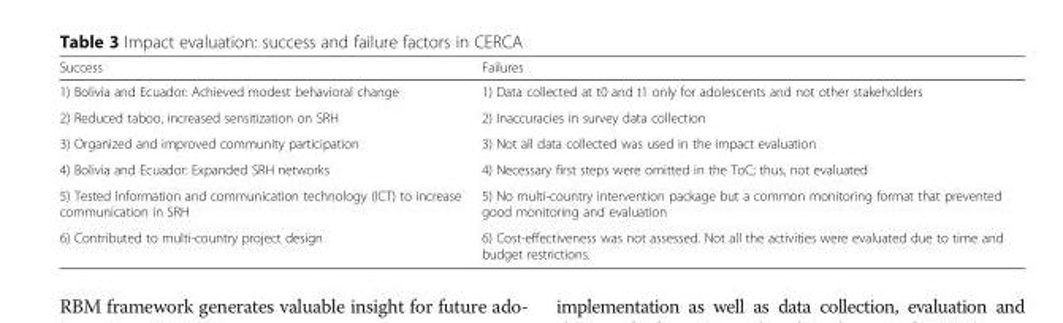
<table><thead><tr><td>Success</td><td>Failures</td></tr></thead><tbody><tr><td>1) Bolivia and Ecuador: Achieved modest behavioral change</td><td>1) Data collected at t0 and t1 only for adolescents and not other stakeholders</td></tr><tr><td>2) Reduced taboo, increased sensitization on SRH</td><td>2) Inaccuracies in survey data collection</td></tr><tr><td>3) Organized and improved community participation</td><td>3) Not all data collected was used in the impact evaluation</td></tr><tr><td>4) Bolivia and Ecuador: Expanded SRH networks</td><td>4) Necessary first steps were omitted in the ToC; thus, not evaluated</td></tr><tr><td>5) Tested Information and communication technology (ICT) to increase communication in SRH</td><td>5) No multi-country intervention package but a common monitoring format that prevented good monitoring and evaluation</td></tr><tr><td>6) Contributed to multi-country project design</td><td>6) Cost-effectiveness was not assessed. Not all the activities were evaluated due to time and budget restrictions.</td></tr></tbody></table>